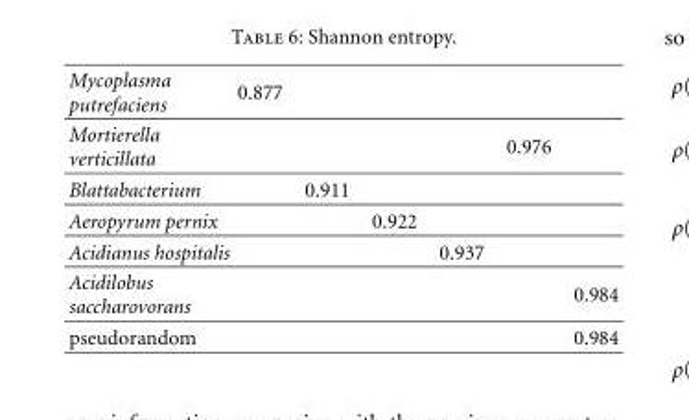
<table><tbody><tr><td>Mycoplasma putrefaciens</td><td>0.877</td><td></td><td></td><td></td><td></td><td></td></tr><tr><td>Mortierella verticillata</td><td></td><td></td><td></td><td></td><td>0.976</td><td></td></tr><tr><td>Blattabacterium</td><td></td><td>0.911</td><td></td><td></td><td></td><td></td></tr><tr><td>Aeropyrum pernix</td><td></td><td></td><td>0.922</td><td></td><td></td><td></td></tr><tr><td>Acidianus hospitalis</td><td></td><td></td><td></td><td>0.937</td><td></td><td></td></tr><tr><td>Acidilobus saccharovorans</td><td></td><td></td><td></td><td></td><td></td><td>0.984</td></tr><tr><td>pseudorandom</td><td></td><td></td><td></td><td></td><td></td><td>0.984</td></tr></tbody></table>